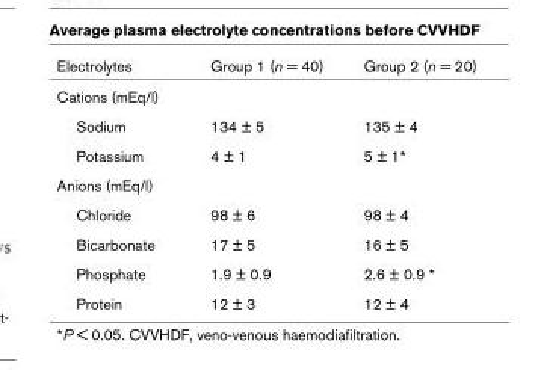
<table><thead><tr><td>Electrolytes</td><td>Group 1 (n = 40)</td><td>Group 2 (n = 20)</td></tr></thead><tbody><tr><td colspan="3">Cations (mEq/l)</td></tr><tr><td>Sodium</td><td>134 ± 5</td><td>135 ± 4</td></tr><tr><td>Potassium</td><td>4 ± 1</td><td>5 ± 1*</td></tr><tr><td colspan="3">Anions (mEq/l)</td></tr><tr><td>Chloride</td><td>98 ± 6</td><td>98 ± 4</td></tr><tr><td>Bicarbonate</td><td>17 ± 5</td><td>16 ± 5</td></tr><tr><td>Phosphate</td><td>1.9 ± 0.9</td><td>2.6 ± 0.9 *</td></tr><tr><td>Protein</td><td>12 ± 3</td><td>12 ± 4</td></tr></tbody></table>